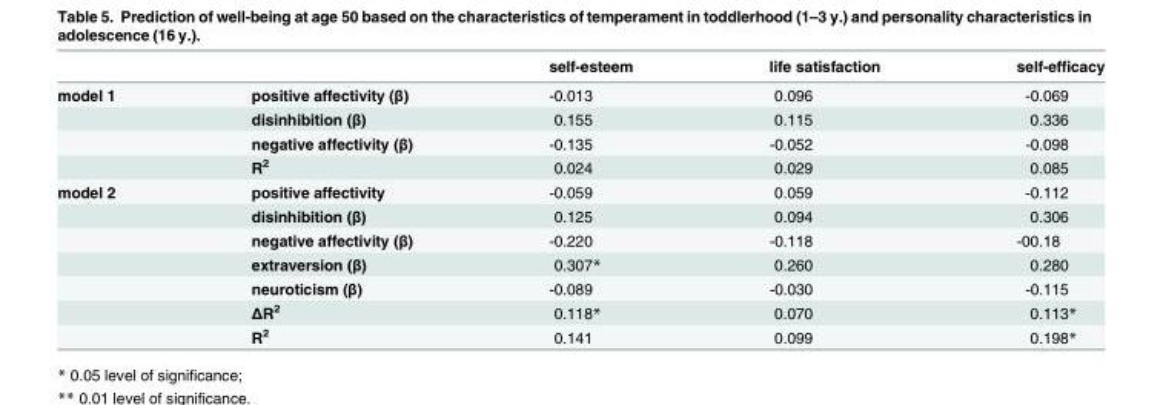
<table><thead><tr><td></td><td></td><td>self-esteem</td><td>life satisfaction</td><td>self-efficacy</td></tr></thead><tbody><tr><td rowspan="4">model 1</td><td>positive affectivity (β)</td><td>-0.013</td><td>0.096</td><td>-0.069</td></tr><tr><td>disinhibition (β)</td><td>0.155</td><td>0.115</td><td>0.336</td></tr><tr><td>negative affectivity (β)</td><td>-0.135</td><td>-0.052</td><td>-0.098</td></tr><tr><td>R<sup>2</sup></td><td>0.024</td><td>0.029</td><td>0.085</td></tr><tr><td rowspan="7">model 2</td><td>positive affectivity</td><td>-0.059</td><td>0.059</td><td>-0.112</td></tr><tr><td>disinhibition (β)</td><td>0.125</td><td>0.094</td><td>0.306</td></tr><tr><td>negative affectivity (β)</td><td>-0.220</td><td>-0.118</td><td>-00.18</td></tr><tr><td>extraversion (β)</td><td>0.307*</td><td>0.260</td><td>0.280</td></tr><tr><td>neuroticism (β)</td><td>-0.089</td><td>-0.030</td><td>-0.115</td></tr><tr><td>ΔR<sup>2</sup></td><td>0.118*</td><td>0.070</td><td>0.113*</td></tr><tr><td>R<sup>2</sup></td><td>0.141</td><td>0.099</td><td>0.198*</td></tr></tbody></table>